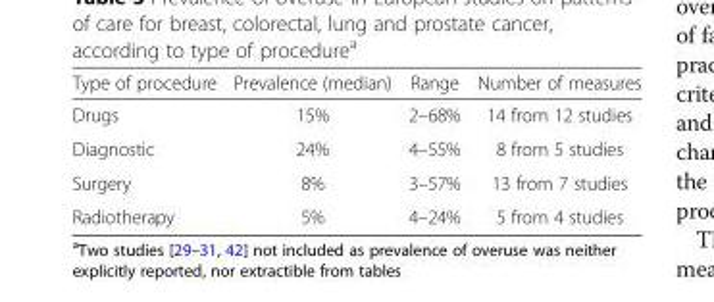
<table><thead><tr><td>Type of procedure</td><td>Prevalence (median)</td><td>Range</td><td>Number of measures</td></tr></thead><tbody><tr><td>Drugs</td><td>15%</td><td>2–68%</td><td>14 from 12 studies</td></tr><tr><td>Diagnostic</td><td>24%</td><td>4–55%</td><td>8 from 5 studies</td></tr><tr><td>Surgery</td><td>8%</td><td>3–57%</td><td>13 from 7 studies</td></tr><tr><td>Radiotherapy</td><td>5%</td><td>4–24%</td><td>5 from 4 studies</td></tr></tbody></table>